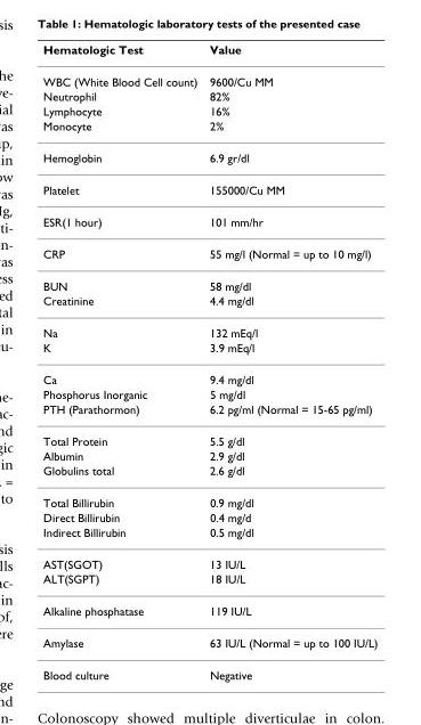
<table><thead><tr><td>Hematologic Test</td><td>Value</td></tr></thead><tbody><tr><td>WBC (White Blood Cell count)</td><td>9600/Cu MM</td></tr><tr><td>Neutrophil</td><td>82%</td></tr><tr><td>Lymphocyte</td><td>16%</td></tr><tr><td>Monocyte</td><td>2%</td></tr><tr><td>Hemoglobin</td><td>6.9 gr/dl</td></tr><tr><td>Platelet</td><td>155000/Cu MM</td></tr><tr><td>ESR(1 hour)</td><td>101 mm/hr</td></tr><tr><td>CRP</td><td>55 mg/l (Normal = up to 10 mg/l)</td></tr><tr><td>BUN</td><td>58 mg/dl</td></tr><tr><td>Creatinine</td><td>4.4 mg/dl</td></tr><tr><td>Na</td><td>132 mEq/l</td></tr><tr><td>K</td><td>3.9 mEq/l</td></tr><tr><td>Ca</td><td>9.4 mg/dl</td></tr><tr><td>Phosphorus Inorganic</td><td>5 mg/dl</td></tr><tr><td>PTH (Parathormon)</td><td>6.2 pg/ml (Normal = 15-65 pg/ml)</td></tr><tr><td>Total Protein</td><td>5.5 g/dl</td></tr><tr><td>Albumin</td><td>2.9 g/dl</td></tr><tr><td>Globulins total</td><td>2.6 g/dl</td></tr><tr><td>Total Billirubin</td><td>0.9 mg/dl</td></tr><tr><td>Direct Billirubin</td><td>0.4 mg/d</td></tr><tr><td>Indirect Billirubin</td><td>0.5 mg/dl</td></tr><tr><td>AST(SGOT)</td><td>13 IU/L</td></tr><tr><td>ALT(SGPT)</td><td>18 IU/L</td></tr><tr><td>Alkaline phosphatase</td><td>119 IU/L</td></tr><tr><td>Amylase</td><td>63 IU/L (Normal = up to 100 IU/L)</td></tr><tr><td>Blood culture</td><td>Negative</td></tr></tbody></table>